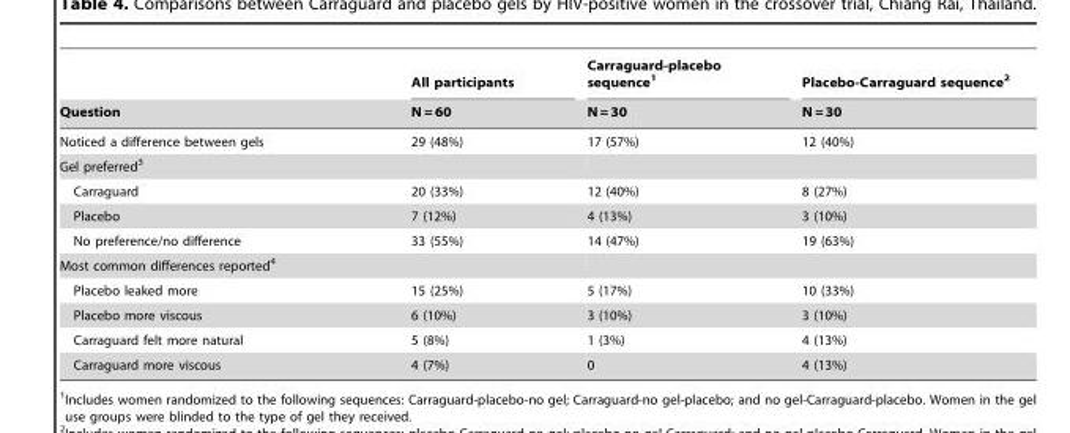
<table><thead><tr><td rowspan="2">Question</td><td rowspan="2">All participants N = 60</td><td rowspan="2">Carraguard-placebo sequence<sup>1</sup> N = 30</td><td rowspan="2">Placebo-Carraguard sequence<sup>2</sup> N = 30</td></tr><tr></tr></thead><tbody><tr><td>Noticed a difference between gels</td><td>29 (48%)</td><td>17 (57%)</td><td>12 (40%)</td></tr><tr><td colspan="4">Gel preferred<sup>3</sup></td></tr><tr><td>Carraguard</td><td>20 (33%)</td><td>12 (40%)</td><td>8 (27%)</td></tr><tr><td>Placebo</td><td>7 (12%)</td><td>4 (13%)</td><td>3 (10%)</td></tr><tr><td>No preference/no difference</td><td>33 (55%)</td><td>14 (47%)</td><td>19 (63%)</td></tr><tr><td colspan="4">Most common differences reported<sup>4</sup></td></tr><tr><td>Placebo leaked more</td><td>15 (25%)</td><td>5 (17%)</td><td>10 (33%)</td></tr><tr><td>Placebo more viscous</td><td>6 (10%)</td><td>3 (10%)</td><td>3 (10%)</td></tr><tr><td>Carraguard felt more natural</td><td>5 (8%)</td><td>1 (3%)</td><td>4 (13%)</td></tr><tr><td>Carraguard more viscous</td><td>4 (7%)</td><td>0</td><td>4 (13%)</td></tr></tbody></table>